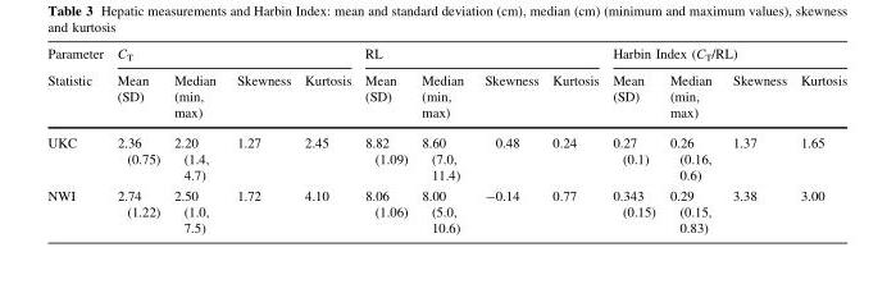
<table><thead><tr><td rowspan="2">Parameter Statistic</td><td colspan="4">C<sub>T</sub></td><td colspan="4">RL</td><td colspan="4">Harbin Index (C<sub>T</sub>/RL)</td></tr><tr><td>Mean (SD)</td><td>Median (min, max)</td><td>Skewness</td><td>Kurtosis</td><td>Mean (SD)</td><td>Median (min, max)</td><td>Skewness</td><td>Kurtosis</td><td>Mean (SD)</td><td>Median (min, max)</td><td>Skewness</td><td>Kurtosis</td></tr></thead><tbody><tr><td>UKC</td><td>2.36 (0.75)</td><td>2.20 (1.4, 4.7)</td><td>1.27</td><td>2.45</td><td>8.82 (1.09)</td><td>8.60 (7.0, 11.4)</td><td>0.48</td><td>0.24</td><td>0.27 (0.1)</td><td>0.26 (0.16, 0.6)</td><td>1.37</td><td>1.65</td></tr><tr><td>NWI</td><td>2.74 (1.22)</td><td>2.50 (1.0, 7.5)</td><td>1.72</td><td>4.10</td><td>8.06 (1.06)</td><td>8.00 (5.0, 10.6)</td><td>-0.14</td><td>0.77</td><td>0.343 (0.15)</td><td>0.29 (0.15, 0.83)</td><td>3.38</td><td>3.00</td></tr></tbody></table>